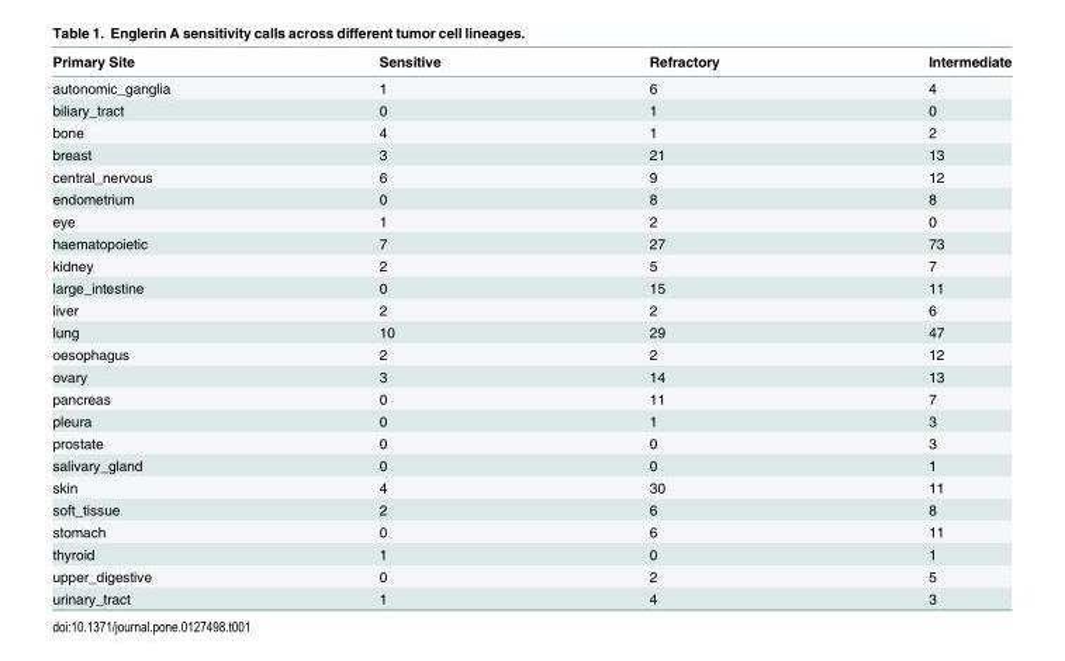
<table><thead><tr><td>Primary Site</td><td>Sensitive</td><td>Refractory</td><td>Intermediate</td></tr></thead><tbody><tr><td>autonomic_ganglia</td><td>1</td><td>6</td><td>4</td></tr><tr><td>biliary_tract</td><td>0</td><td>1</td><td>0</td></tr><tr><td>bone</td><td>4</td><td>1</td><td>2</td></tr><tr><td>breast</td><td>3</td><td>21</td><td>13</td></tr><tr><td>central_nervous</td><td>6</td><td>9</td><td>12</td></tr><tr><td>endometrium</td><td>0</td><td>8</td><td>8</td></tr><tr><td>eye</td><td>1</td><td>2</td><td>0</td></tr><tr><td>haematopoietic</td><td>7</td><td>27</td><td>73</td></tr><tr><td>kidney</td><td>2</td><td>5</td><td>7</td></tr><tr><td>large_intestine</td><td>0</td><td>15</td><td>11</td></tr><tr><td>liver</td><td>2</td><td>2</td><td>6</td></tr><tr><td>lung</td><td>10</td><td>29</td><td>47</td></tr><tr><td>oesophagus</td><td>2</td><td>2</td><td>12</td></tr><tr><td>ovary</td><td>3</td><td>14</td><td>13</td></tr><tr><td>pancreas</td><td>0</td><td>11</td><td>7</td></tr><tr><td>pleura</td><td>0</td><td>1</td><td>3</td></tr><tr><td>prostate</td><td>0</td><td>0</td><td>3</td></tr><tr><td>salivary_gland</td><td>0</td><td>0</td><td>1</td></tr><tr><td>skin</td><td>4</td><td>30</td><td>11</td></tr><tr><td>soft_tissue</td><td>2</td><td>6</td><td>8</td></tr><tr><td>stomach</td><td>0</td><td>6</td><td>11</td></tr><tr><td>thyroid</td><td>1</td><td>0</td><td>1</td></tr><tr><td>upper_digestive</td><td>0</td><td>2</td><td>5</td></tr><tr><td>urinary_tract</td><td>1</td><td>4</td><td>3</td></tr></tbody></table>